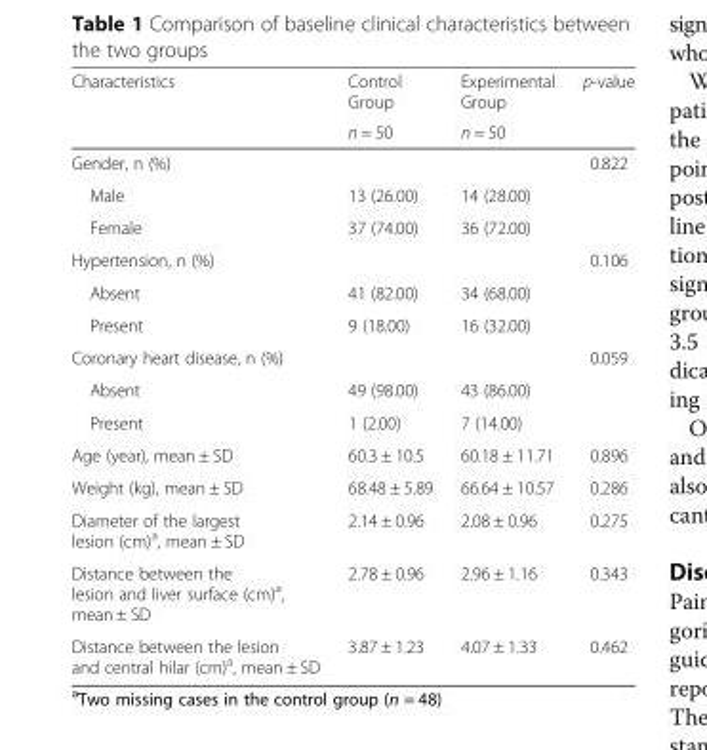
<table><thead><tr><td rowspan="2">Characteristics</td><td rowspan="2">Control Group n = 50</td><td rowspan="2">Experimental Group n = 50</td><td rowspan="2">p-value</td></tr><tr></tr></thead><tbody><tr><td>Gender, n (%)</td><td></td><td></td><td>0.822</td></tr><tr><td>Male</td><td>13 (26.00)</td><td>14 (28.00)</td><td></td></tr><tr><td>Female</td><td>37 (74.00)</td><td>36 (72.00)</td><td></td></tr><tr><td>Hypertension, n (%)</td><td></td><td></td><td>0.106</td></tr><tr><td>Absent</td><td>41 (82.00)</td><td>34 (68.00)</td><td></td></tr><tr><td>Present</td><td>9 (18.00)</td><td>16 (32.00)</td><td></td></tr><tr><td>Coronary heart disease, n (%)</td><td></td><td></td><td>0.059</td></tr><tr><td>Absent</td><td>49 (98.00)</td><td>43 (86.00)</td><td></td></tr><tr><td>Present</td><td>1 (2.00)</td><td>7 (14.00)</td><td></td></tr><tr><td>Age (year), mean ± SD</td><td>60.3 ± 10.5</td><td>60.18 ± 11.71</td><td>0.896</td></tr><tr><td>Weight (kg), mean ± SD</td><td>68.48 ± 5.89</td><td>66.64 ± 10.57</td><td>0.286</td></tr><tr><td>Diameter of the largest lesion (cm)<sup>a</sup>, mean ± SD</td><td>2.14 ± 0.96</td><td>2.08 ± 0.96</td><td>0.275</td></tr><tr><td>Distance between the lesion and liver surface (cm)<sup>a</sup>, mean ± SD</td><td>2.78 ± 0.96</td><td>2.96 ± 1.16</td><td>0.343</td></tr><tr><td>Distance between the lesion and central hilar (cm)<sup>a</sup>, mean ± SD</td><td>3.87 ± 1.23</td><td>4.07 ± 1.33</td><td>0.462</td></tr></tbody></table>